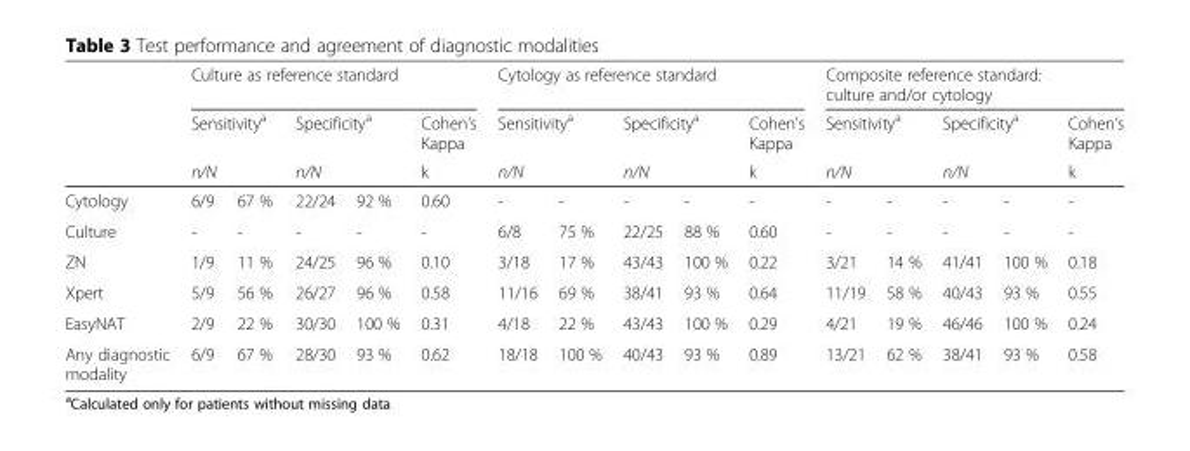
<table><thead><tr><td rowspan="4">Cytology</td><td colspan="5">Culture as reference standard</td><td colspan="5">Cytology as reference standard</td><td colspan="5">Composite reference standard: culture and/or cytology</td></tr><tr><td rowspan="2" colspan="2">Sensitivity<sup>a</sup> n/N</td><td rowspan="2" colspan="2">Specificity<sup>a</sup> n/N</td><td rowspan="3">Cohen’s Kappa k 0.60</td><td rowspan="2" colspan="2">Sensitivity<sup>a</sup> n/N</td><td rowspan="2" colspan="2">Specificity<sup>a</sup> n/N</td><td rowspan="3">Cohen’s Kappa k -</td><td rowspan="2" colspan="2">Sensitivity<sup>a</sup> n/N</td><td rowspan="2" colspan="2">Specificity<sup>a</sup> n/N</td><td rowspan="3">Cohen’s Kappa k -</td></tr><tr></tr><tr><td>6/9</td><td>67 %</td><td>22/24</td><td>92 %</td><td>-</td><td>-</td><td>-</td><td>-</td><td>-</td><td>-</td><td>-</td><td>-</td></tr></thead><tbody><tr><td>Culture</td><td>-</td><td>-</td><td>-</td><td>-</td><td>-</td><td>6/8</td><td>75 %</td><td>22/25</td><td>88 %</td><td>0.60</td><td>-</td><td>-</td><td>-</td><td>-</td><td>-</td></tr><tr><td>ZN</td><td>1/9</td><td>11 %</td><td>24/25</td><td>96 %</td><td>0.10</td><td>3/18</td><td>17 %</td><td>43/43</td><td>100 %</td><td>0.22</td><td>3/21</td><td>14 %</td><td>41/41</td><td>100 %</td><td>0.18</td></tr><tr><td>Xpert</td><td>5/9</td><td>56 %</td><td>26/27</td><td>96 %</td><td>0.58</td><td>11/16</td><td>69 %</td><td>38/41</td><td>93 %</td><td>0.64</td><td>11/19</td><td>58 %</td><td>40/43</td><td>93 %</td><td>0.55</td></tr><tr><td>EasyNAT</td><td>2/9</td><td>22 %</td><td>30/30</td><td>100 %</td><td>0.31</td><td>4/18</td><td>22 %</td><td>43/43</td><td>100 %</td><td>0.29</td><td>4/21</td><td>19 %</td><td>46/46</td><td>100 %</td><td>0.24</td></tr><tr><td>Any diagnostic modality</td><td>6/9</td><td>67 %</td><td>28/30</td><td>93 %</td><td>0.62</td><td>18/18</td><td>100 %</td><td>40/43</td><td>93 %</td><td>0.89</td><td>13/21</td><td>62 %</td><td>38/41</td><td>93 %</td><td>0.58</td></tr></tbody></table>